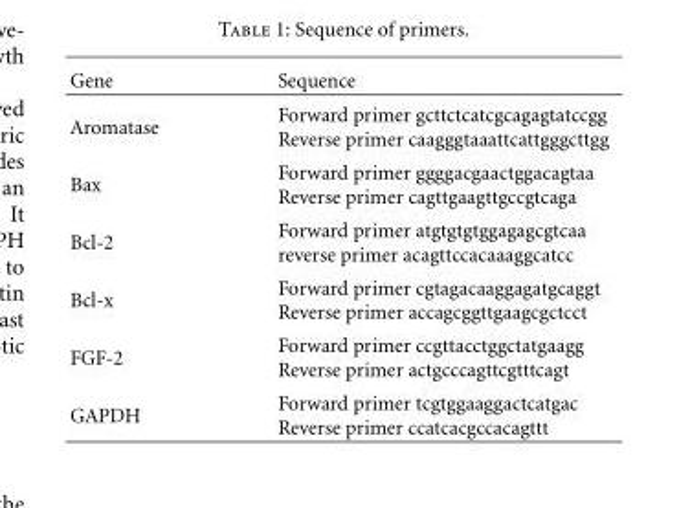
<table><thead><tr><td>Gene</td><td>Sequence</td></tr></thead><tbody><tr><td>Aromatase</td><td>Forward primer gcttctcatcgcagagtatccgg Reverse primer caagggtaaattcattgggcttgg</td></tr><tr><td>Bax</td><td>Forward primer ggggacgaactggacagtaa Reverse primer cagttgaagttgccgtcaga</td></tr><tr><td>Bcl-2</td><td>Forward primer atgtgtgtggagagcgtcaa reverse primer acagttccacaaaggcatcc</td></tr><tr><td>Bcl-x</td><td>Forward primer cgtagacaaggagatgcaggt Reverse primer accagcggttgaagcgctcct</td></tr><tr><td>FGF-2</td><td>Forward primer ccgttacctggctatgaagg Reverse primer actgcccagttcgtttcagt</td></tr><tr><td>GAPDH</td><td>Forward primer tcgtggaaggactcatgac Reverse primer ccatcacgccacagttt</td></tr></tbody></table>